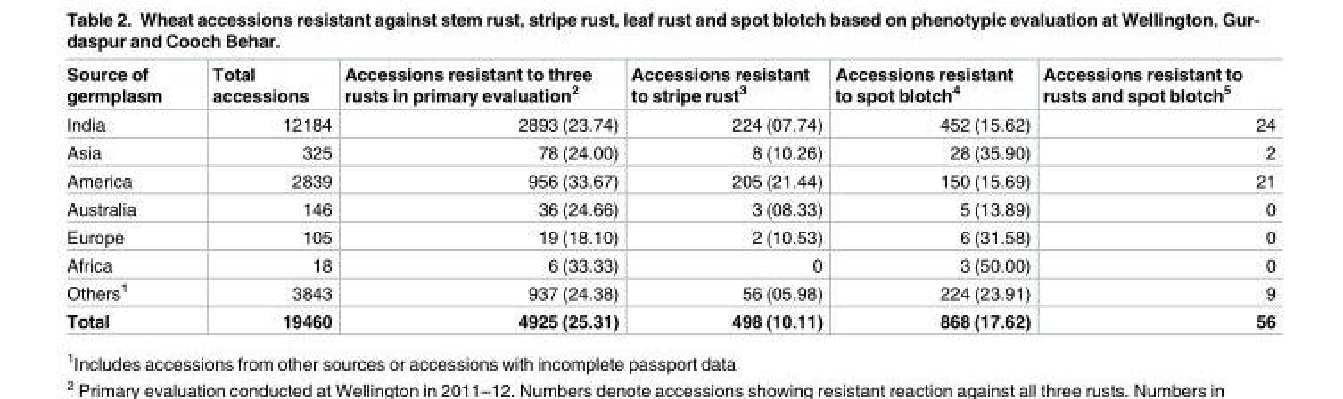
<table><thead><tr><td>Source of germplasm</td><td>Total accessions</td><td>Accessions resistant to three rusts in primary evaluation<sup>2</sup></td><td>Accessions resistant to stripe rust<sup>3</sup></td><td>Accessions resistant to spot blotch<sup>4</sup></td><td>Accessions resistant to rusts and spot blotch<sup>5</sup></td></tr></thead><tbody><tr><td>India</td><td>12184</td><td>2893 (23.74)</td><td>224 (07.74)</td><td>452 (15.62)</td><td>24</td></tr><tr><td>Asia</td><td>325</td><td>78 (24.00)</td><td>8 (10.26)</td><td>28 (35.90)</td><td>2</td></tr><tr><td>America</td><td>2839</td><td>956 (33.67)</td><td>205 (21.44)</td><td>150 (15.69)</td><td>21</td></tr><tr><td>Australia</td><td>146</td><td>36 (24.66)</td><td>3 (08.33)</td><td>5 (13.89)</td><td>0</td></tr><tr><td>Europe</td><td>105</td><td>19 (18.10)</td><td>2 (10.53)</td><td>6 (31.58)</td><td>0</td></tr><tr><td>Africa</td><td>18</td><td>6 (33.33)</td><td>0</td><td>3 (50.00)</td><td>0</td></tr><tr><td>Others<sup>1</sup></td><td>3843</td><td>937 (24.38)</td><td>56 (05.98)</td><td>224 (23.91)</td><td>9</td></tr><tr><td>Total</td><td>19460</td><td>4925 (25.31)</td><td>498 (10.11)</td><td>868 (17.62)</td><td>56</td></tr></tbody></table>